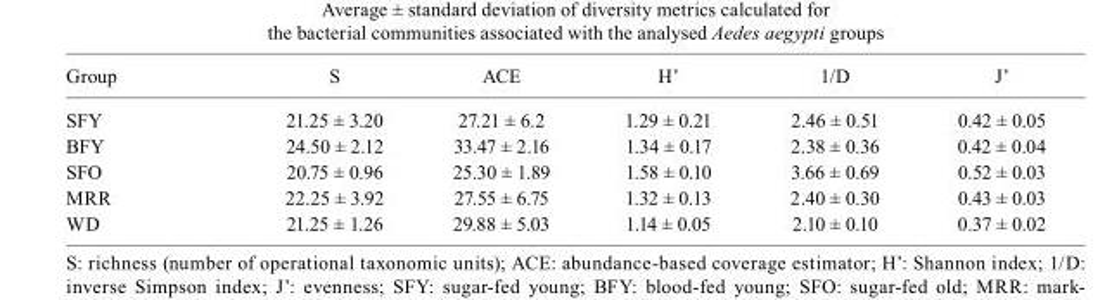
<table><thead><tr><td>Group</td><td>S</td><td>ACE</td><td>H’</td><td>1/D</td><td>J’</td></tr></thead><tbody><tr><td>SFY</td><td>21.25 ± 3.20</td><td>27.21 ± 6.2</td><td>1.29 ± 0.21</td><td>2.46 ± 0.51</td><td>0.42 ± 0.05</td></tr><tr><td>BFY</td><td>24.50 ± 2.12</td><td>33.47 ± 2.16</td><td>1.34 ± 0.17</td><td>2.38 ± 0.36</td><td>0.42 ± 0.04</td></tr><tr><td>SFO</td><td>20.75 ± 0.96</td><td>25.30 ± 1.89</td><td>1.58 ± 0.10</td><td>3.66 ± 0.69</td><td>0.52 ± 0.03</td></tr><tr><td>MRR</td><td>22.25 ± 3.92</td><td>27.55 ± 6.75</td><td>1.32 ± 0.13</td><td>2.40 ± 0.30</td><td>0.43 ± 0.03</td></tr><tr><td>WD</td><td>21.25 ± 1.26</td><td>29.88 ± 5.03</td><td>1.14 ± 0.05</td><td>2.10 ± 0.10</td><td>0.37 ± 0.02</td></tr></tbody></table>